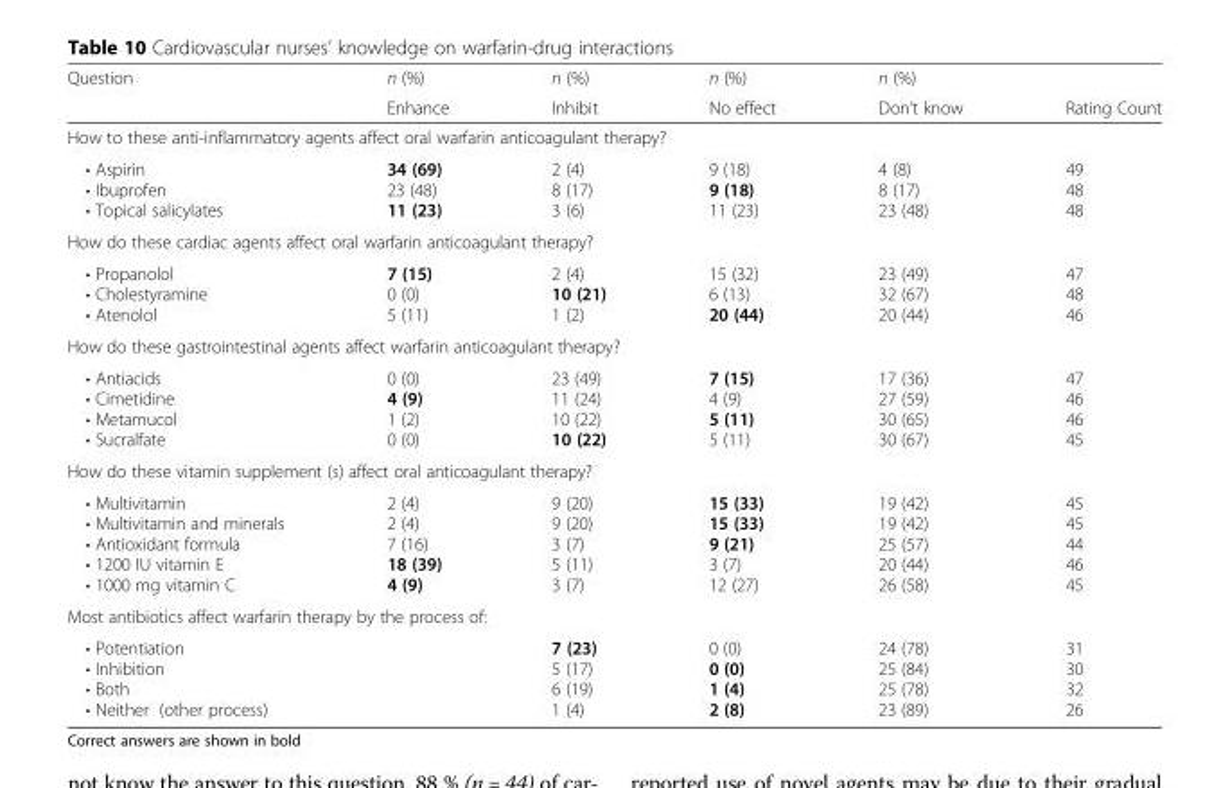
<table><thead><tr><td rowspan="2">Question</td><td rowspan="2">n (%) Enhance</td><td rowspan="2">n (%) Inhibit</td><td rowspan="2">n (%) No effect</td><td rowspan="2">n (%) Don’t know</td><td rowspan="2">Rating Count</td></tr><tr></tr></thead><tbody><tr><td colspan="6">How to these anti-inflammatory agents affect oral warfarin anticoagulant therapy?</td></tr><tr><td>• Aspirin • Ibuprofen • Topical salicylates</td><td>34 (69) 23 (48) 11 (23)</td><td>2 (4) 8 (17) 3 (6)</td><td>9 (18) 9 (18) 11 (23)</td><td>4 (8) 8 (17) 23 (48)</td><td>49 48 48</td></tr><tr><td colspan="6">How do these cardiac agents affect oral warfarin anticoagulant therapy?</td></tr><tr><td>• Propanolol • Cholestyramine • Atenolol</td><td>7 (15) 0 (0) 5 (11)</td><td>2 (4) 10 (21) 1 (2)</td><td>15 (32) 6 (13) 20 (44)</td><td>23 (49) 32 (67) 20 (44)</td><td>47 48 46</td></tr><tr><td colspan="6">How do these gastrointestinal agents affect warfarin anticoagulant therapy?</td></tr><tr><td>• Antiacids • Cimetidine • Metamucol • Sucralfate</td><td>0 (0) 4 (9) 1 (2) 0 (0)</td><td>23 (49) 11 (24) 10 (22) 10 (22)</td><td>7 (15) 4 (9) 5 (11) 5 (11)</td><td>17 (36) 27 (59) 30 (65) 30 (67)</td><td>47 46 46 45</td></tr><tr><td colspan="6">How do these vitamin supplement (s) affect oral anticoagulant therapy?</td></tr><tr><td>• Multivitamin • Multivitamin and minerals • Antioxidant formula • 1200 IU vitamin E • 1000 mg vitamin C</td><td>2 (4) 2 (4) 7 (16) 18 (39) 4 (9)</td><td>9 (20) 9 (20) 3 (7) 5 (11) 3 (7)</td><td>15 (33) 15 (33) 9 (21) 3 (7) 12 (27)</td><td>19 (42) 19 (42) 25 (57) 20 (44) 26 (58)</td><td>45 45 44 46 45</td></tr><tr><td colspan="6">Most antibiotics affect warfarin therapy by the process of:</td></tr><tr><td>• Potentiation • Inhibition • Both • Neither (other process)</td><td></td><td>7 (23) 5 (17) 6 (19) 1 (4)</td><td>0 (0) 0 (0) 1 (4) 2 (8)</td><td>24 (78) 25 (84) 25 (78) 23 (89)</td><td>31 30 32 26</td></tr></tbody></table>